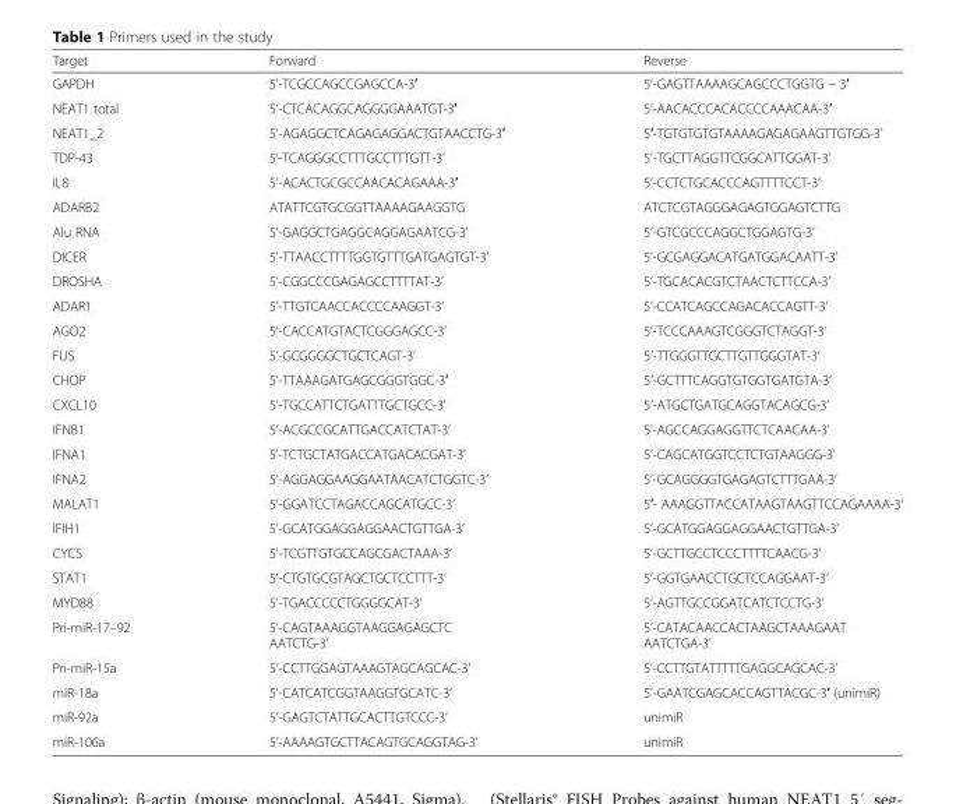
<table><thead><tr><td>Target</td><td>Forward</td><td>Reverse</td></tr></thead><tbody><tr><td>GAPDH</td><td>5’-TCGCCAGCCGAGCCA-3′</td><td>5’-GAGTTAAAAGCAGCCCTGGTG − 3′</td></tr><tr><td>NEAT1 total</td><td>5’-CTCACAGGCAGGGGAAATGT-3′</td><td>5’-AACACCCACACCCCAAACAA-3′</td></tr><tr><td>NEAT1_2</td><td>5’-AGAGGCTCAGAGAGGACTGTAACCTG-3′</td><td>5′-TGTGTGTGTAAAAGAGAGAAGTTGTGG-3’</td></tr><tr><td>TDP-43</td><td>5’-TCAGGGCCTTTGCCTTTGTT-3’</td><td>5’-TGCTTAGGTTCGGCATTGGAT-3’</td></tr><tr><td>IL8</td><td>5’-ACACTGCGCCAACACAGAAA-3′</td><td>5’-CCTCTGCACCCAGTTTTCCT-3’</td></tr><tr><td>ADARB2</td><td>ATATTCGTGCGGTTAAAAGAAGGTG</td><td>ATCTCGTAGGGAGAGTGGAGTCTTG</td></tr><tr><td>Alu RNA</td><td>5’-GAGGCTGAGGCAGGAGAATCG-3’</td><td>5’-GTCGCCCAGGCTGGAGTG-3’</td></tr><tr><td>DICER</td><td>5’-TTAACCTTTTGGTGTTTGATGAGTGT-3’</td><td>5’-GCGAGGACATGATGGACAATT-3’</td></tr><tr><td>DROSHA</td><td>5’-CGGCCCGAGAGCCTTTTAT-3’</td><td>5’-TGCACACGTCTAACTCTTCCA-3’</td></tr><tr><td>ADAR1</td><td>5’-TTGTCAACCACCCCAAGGT-3’</td><td>5’-CCATCAGCCAGACACCAGTT-3’</td></tr><tr><td>AGO2</td><td>5’-CACCATGTACTCGGGAGCC-3’</td><td>5’-TCCCAAAGTCGGGTCTAGGT-3’</td></tr><tr><td>FUS</td><td>5’-GCGGGGCTGCTCAGT-3’</td><td>5’-TTGGGTTGCTTGTTGGGTAT-3’</td></tr><tr><td>CHOP</td><td>5’-TTAAAGATGAGCGGGTGGC-3′</td><td>5’-GCTTTCAGGTGTGGTGATGTA-3’</td></tr><tr><td>CXCL10</td><td>5’-TGCCATTCTGATTTGCTGCC-3’</td><td>5’-ATGCTGATGCAGGTACAGCG-3’</td></tr><tr><td>IFNB1</td><td>5’-ACGCCGCATTGACCATCTAT-3’</td><td>5’-AGCCAGGAGGTTCTCAACAA-3’</td></tr><tr><td>IFNA1</td><td>5’-TCTGCTATGACCATGACACGAT-3’</td><td>5’-CAGCATGGTCCTCTGTAAGGG-3’</td></tr><tr><td>IFNA2</td><td>5’-AGGAGGAAGGAATAACATCTGGTC-3’</td><td>5’-GCAGGGGTGAGAGTCTTTGAA-3’</td></tr><tr><td>MALAT1</td><td>5’-GGATCCTAGACCAGCATGCC-3’</td><td>5′- AAAGGTTACCATAAGTAAGTTCCAGAAAA-3’</td></tr><tr><td>IFIH1</td><td>5’-GCATGGAGGAGGAACTGTTGA-3’</td><td>5’-GCATGGAGGAGGAACTGTTGA-3’</td></tr><tr><td>CYCS</td><td>5’-TCGTTGTGCCAGCGACTAAA-3’</td><td>5’-GCTTGCCTCCCTTTTCAACG-3’</td></tr><tr><td>STAT1</td><td>5’-CTGTGCGTAGCTGCTCCTTT-3’</td><td>5’-GGTGAACCTGCTCCAGGAAT-3’</td></tr><tr><td>MYD88</td><td>5’-TGACCCCCTGGGGCAT-3’</td><td>5’-AGTTGCCGGATCATCTCCTG-3’</td></tr><tr><td>Pri-miR-17–92</td><td>5’-CAGTAAAGGTAAGGAGAGCTC AATCTG-3’</td><td>5’-CATACAACCACTAAGCTAAAGAAT AATCTGA-3’</td></tr><tr><td>Pri-miR-15a</td><td>5’-CCTTGGAGTAAAGTAGCAGCAC-3’</td><td>5’-CCTTGTATTTTTGAGGCAGCAC-3’</td></tr><tr><td>miR-18a</td><td>5’-CATCATCGGTAAGGTGCATC-3’</td><td>5’-GAATCGAGCACCAGTTACGC-3′ (unimiR)</td></tr><tr><td>miR-92a</td><td>5’-GAGTCTATTGCACTTGTCCC-3’</td><td>unimiR</td></tr><tr><td>miR-106a</td><td>5’-AAAAGTGCTTACAGTGCAGGTAG-3’</td><td>unimiR</td></tr></tbody></table>